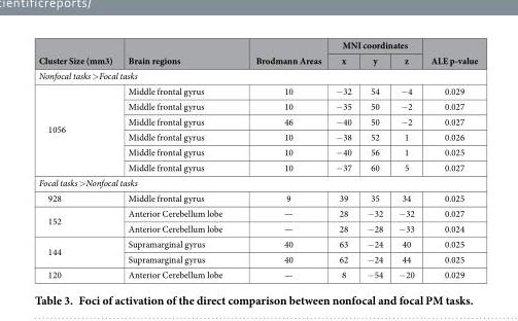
<table><thead><tr><td rowspan="2">Cluster Size (mm3)</td><td rowspan="2">Brain regions</td><td rowspan="2">Brodmann Areas</td><td colspan="3">MNI coordinates</td><td rowspan="2">ALE p-value</td></tr><tr><td>x</td><td>y</td><td>z</td></tr></thead><tbody><tr><td colspan="7">Nonfocal tasks &gt;Focal tasks</td></tr><tr><td rowspan="6">1056</td><td>Middle frontal gyrus</td><td>10</td><td>−32</td><td>54</td><td>−4</td><td>0.029</td></tr><tr><td>Middle frontal gyrus</td><td>10</td><td>−35</td><td>50</td><td>−2</td><td>0.027</td></tr><tr><td>Middle frontal gyrus</td><td>46</td><td>−40</td><td>50</td><td>−2</td><td>0.027</td></tr><tr><td>Middle frontal gyrus</td><td>10</td><td>−38</td><td>52</td><td>1</td><td>0.026</td></tr><tr><td>Middle frontal gyrus</td><td>10</td><td>−40</td><td>56</td><td>1</td><td>0.025</td></tr><tr><td>Middle frontal gyrus</td><td>10</td><td>−37</td><td>60</td><td>5</td><td>0.027</td></tr><tr><td colspan="7">Focal tasks &gt;Nonfocal tasks</td></tr><tr><td>928</td><td>Middle frontal gyrus</td><td>9</td><td>39</td><td>35</td><td>34</td><td>0.025</td></tr><tr><td rowspan="2">152</td><td>Anterior Cerebellum lobe</td><td>—</td><td>28</td><td>−32</td><td>−32</td><td>0.027</td></tr><tr><td>Anterior Cerebellum lobe</td><td>—</td><td>28</td><td>−28</td><td>−33</td><td>0.024</td></tr><tr><td rowspan="2">144</td><td>Supramarginal gyrus</td><td>40</td><td>63</td><td>−24</td><td>40</td><td>0.025</td></tr><tr><td>Supramarginal gyrus</td><td>40</td><td>62</td><td>−24</td><td>44</td><td>0.025</td></tr><tr><td>120</td><td>Anterior Cerebellum lobe</td><td>—</td><td>8</td><td>−54</td><td>−20</td><td>0.029</td></tr></tbody></table>